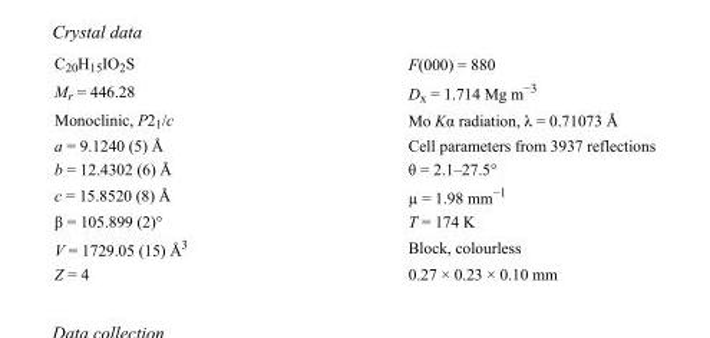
<table><tbody><tr><td>C<sub>20</sub>H<sub>15</sub>IO<sub>2</sub>S</td><td>F(000) = 880</td></tr><tr><td>M<sub>r</sub> = 446.28</td><td>D<sub>x</sub> = 1.714 Mg m<sup>−3</sup></td></tr><tr><td>Monoclinic, P2<sub>1</sub>/c</td><td>Mo Kα radiation, λ = 0.71073 Å</td></tr><tr><td>a = 9.1240 (5) Å</td><td>Cell parameters from 3937 reflections</td></tr><tr><td>b = 12.4302 (6) Å</td><td>θ = 2.1–27.5°</td></tr><tr><td>c = 15.8520 (8) Å</td><td>µ = 1.98 mm<sup>−1</sup></td></tr><tr><td>β = 105.899 (2)°</td><td>T = 174 K</td></tr><tr><td>V = 1729.05 (15) Å<sup>3</sup></td><td>Block, colourless</td></tr><tr><td>Z = 4</td><td>0.27 × 0.23 × 0.10 mm</td></tr></tbody></table>